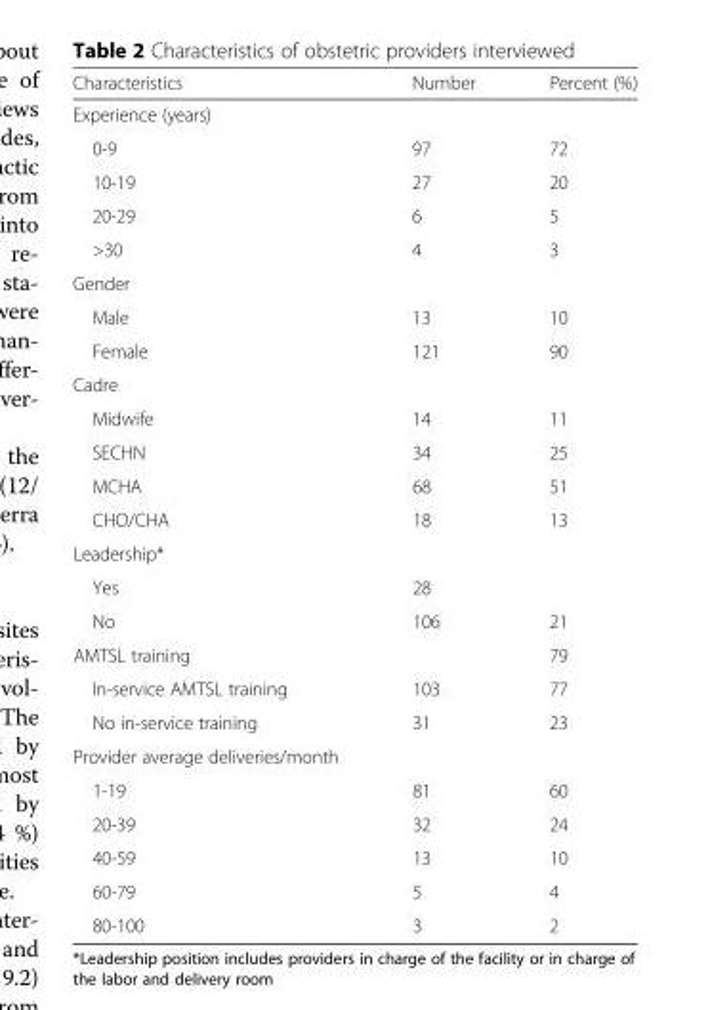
<table><thead><tr><td>Characteristics</td><td>Number</td><td>Percent (%)</td></tr></thead><tbody><tr><td colspan="3">Experience (years)</td></tr><tr><td>0-9</td><td>97</td><td>72</td></tr><tr><td>10-19</td><td>27</td><td>20</td></tr><tr><td>20-29</td><td>6</td><td>5</td></tr><tr><td>&gt;30</td><td>4</td><td>3</td></tr><tr><td colspan="3">Gender</td></tr><tr><td>Male</td><td>13</td><td>10</td></tr><tr><td>Female</td><td>121</td><td>90</td></tr><tr><td colspan="3">Cadre</td></tr><tr><td>Midwife</td><td>14</td><td>11</td></tr><tr><td>SECHN</td><td>34</td><td>25</td></tr><tr><td>MCHA</td><td>68</td><td>51</td></tr><tr><td>CHO/CHA</td><td>18</td><td>13</td></tr><tr><td colspan="3">Leadership*</td></tr><tr><td>Yes</td><td>28</td><td></td></tr><tr><td>No</td><td>106</td><td>21</td></tr><tr><td>AMTSL training</td><td></td><td>79</td></tr><tr><td>In-service AMTSL training</td><td>103</td><td>77</td></tr><tr><td>No in-service training</td><td>31</td><td>23</td></tr><tr><td colspan="3">Provider average deliveries/month</td></tr><tr><td>1-19</td><td>81</td><td>60</td></tr><tr><td>20-39</td><td>32</td><td>24</td></tr><tr><td>40-59</td><td>13</td><td>10</td></tr><tr><td>60-79</td><td>5</td><td>4</td></tr><tr><td>80-100</td><td>3</td><td>2</td></tr></tbody></table>